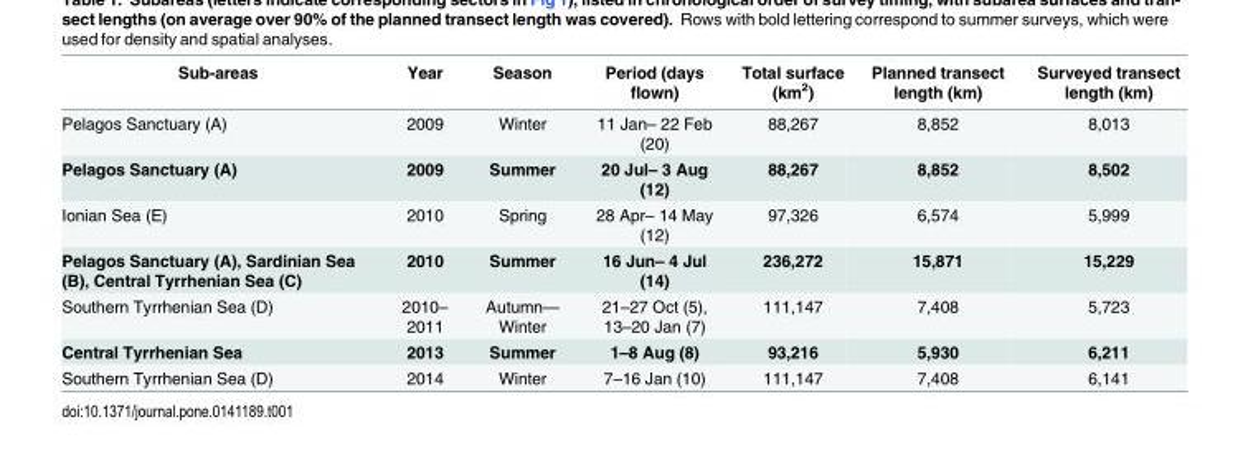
<table><thead><tr><td>Sub-areas</td><td>Year</td><td>Season</td><td>Period (days flown)</td><td>Total surface (km<sup>2</sup>)</td><td>Planned transect length (km)</td><td>Surveyed transect length (km)</td></tr></thead><tbody><tr><td>Pelagos Sanctuary (A)</td><td>2009</td><td>Winter</td><td>11 Jan– 22 Feb (20)</td><td>88,267</td><td>8,852</td><td>8,013</td></tr><tr><td>Pelagos Sanctuary (A)</td><td>2009</td><td>Summer</td><td>20 Jul– 3 Aug (12)</td><td>88,267</td><td>8,852</td><td>8,502</td></tr><tr><td>Ionian Sea (E)</td><td>2010</td><td>Spring</td><td>28 Apr– 14 May (12)</td><td>97,326</td><td>6,574</td><td>5,999</td></tr><tr><td>Pelagos Sanctuary (A), Sardinian Sea (B), Central Tyrrhenian Sea (C)</td><td>2010</td><td>Summer</td><td>16 Jun– 4 Jul (14)</td><td>236,272</td><td>15,871</td><td>15,229</td></tr><tr><td>Southern Tyrrhenian Sea (D)</td><td>2010– 2011</td><td>Autumn— Winter</td><td>21–27 Oct (5), 13–20 Jan (7)</td><td>111,147</td><td>7,408</td><td>5,723</td></tr><tr><td>Central Tyrrhenian Sea</td><td>2013</td><td>Summer</td><td>1–8 Aug (8)</td><td>93,216</td><td>5,930</td><td>6,211</td></tr><tr><td>Southern Tyrrhenian Sea (D)</td><td>2014</td><td>Winter</td><td>7–16 Jan (10)</td><td>111,147</td><td>7,408</td><td>6,141</td></tr></tbody></table>